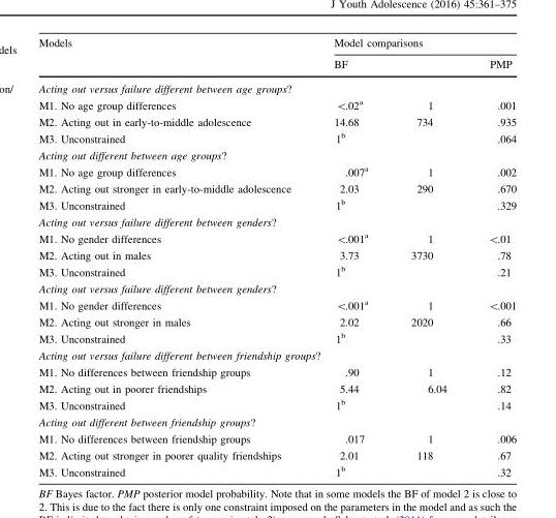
<table><thead><tr><td rowspan="2">Models</td><td colspan="3">Model comparisons</td></tr><tr><td colspan="2">BF</td><td>PMP</td></tr><tr><td colspan="4">Acting out versus failure different between age groups?</td></tr><tr><td>M1. No age group differences</td><td>&lt;.02<sup>a</sup></td><td>1</td><td>.001</td></tr></thead><tbody><tr><td>M2. Acting out in early-to-middle adolescence</td><td>14.68</td><td>734</td><td>.935</td></tr><tr><td>M3. Unconstrained</td><td>1<sup>b</sup></td><td></td><td>.064</td></tr><tr><td colspan="4">Acting out different between age groups?</td></tr><tr><td>M1. No age group differences</td><td>.007<sup>a</sup></td><td>1</td><td>.002</td></tr><tr><td>M2. Acting out stronger in early-to-middle adolescence</td><td>2.03</td><td>290</td><td>.670</td></tr><tr><td>M3. Unconstrained</td><td>1<sup>b</sup></td><td></td><td>.329</td></tr><tr><td colspan="4">Acting out versus failure different between genders?</td></tr><tr><td>M1. No gender differences</td><td>&lt;.001<sup>a</sup></td><td>1</td><td>&lt;.01</td></tr><tr><td>M2. Acting out in males</td><td>3.73</td><td>3730</td><td>.78</td></tr><tr><td>M3. Unconstrained</td><td>1<sup>b</sup></td><td></td><td>.21</td></tr><tr><td colspan="4">Acting out versus failure different between genders?</td></tr><tr><td>M1. No gender differences</td><td>&lt;.001<sup>a</sup></td><td>1</td><td>&lt;.001</td></tr><tr><td>M2. Acting out stronger in males</td><td>2.02</td><td>2020</td><td>.66</td></tr><tr><td>M3. Unconstrained</td><td>1<sup>b</sup></td><td></td><td>.33</td></tr><tr><td colspan="4">Acting out versus failure different between friendship groups?</td></tr><tr><td>M1. No differences between friendship groups</td><td>.90</td><td>1</td><td>.12</td></tr><tr><td>M2. Acting out in poorer friendships</td><td>5.44</td><td>6.04</td><td>.82</td></tr><tr><td>M3. Unconstrained</td><td>1<sup>b</sup></td><td></td><td>.14</td></tr><tr><td colspan="4">Acting out different between friendship groups?</td></tr><tr><td>M1. No differences between friendship groups</td><td>.017</td><td>1</td><td>.006</td></tr><tr><td>M2. Acting out stronger in poorer quality friendships</td><td>2.01</td><td>118</td><td>.67</td></tr><tr><td>M3. Unconstrained</td><td>1<sup>b</sup></td><td></td><td>.32</td></tr></tbody></table>